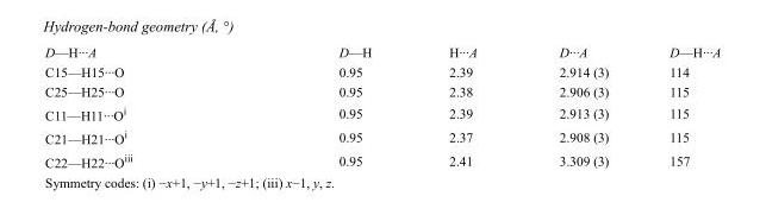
<table><tbody><tr><td>D—H···A</td><td>D—H</td><td>H···A</td><td>D···A</td><td>D—H···A</td></tr><tr><td>C15—H15···O</td><td>0.95</td><td>2.39</td><td>2.914 (3)</td><td>114</td></tr><tr><td>C25—H25···O</td><td>0.95</td><td>2.38</td><td>2.906 (3)</td><td>115</td></tr><tr><td>C11—H11···O<sup>i</sup></td><td>0.95</td><td>2.39</td><td>2.913 (3)</td><td>115</td></tr><tr><td>C21—H21···O<sup>i</sup></td><td>0.95</td><td>2.37</td><td>2.908 (3)</td><td>115</td></tr><tr><td>C22—H22···O<sup>iii</sup></td><td>0.95</td><td>2.41</td><td>3.309 (3)</td><td>157</td></tr></tbody></table>